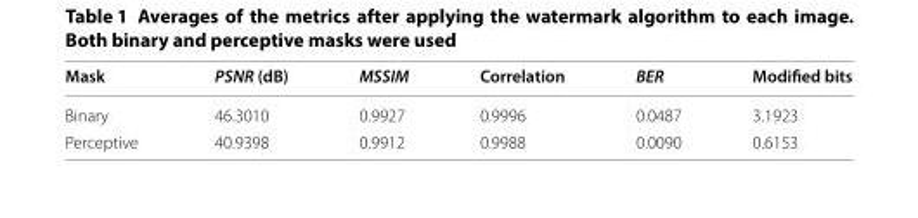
<table><thead><tr><td>Mask</td><td>PSNR (dB)</td><td>MSSIM</td><td>Correlation</td><td>BER</td><td>Modified bits</td></tr></thead><tbody><tr><td>Binary</td><td>46.3010</td><td>0.9927</td><td>0.9996</td><td>0.0487</td><td>3.1923</td></tr><tr><td>Perceptive</td><td>40.9398</td><td>0.9912</td><td>0.9988</td><td>0.0090</td><td>0.6153</td></tr></tbody></table>